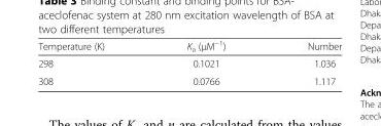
<table><thead><tr><td>Temperature (K)</td><td>K<sub>a</sub> (μM<sup>−1</sup>)</td><td>Number</td></tr></thead><tbody><tr><td>298</td><td>0.1021</td><td>1.036</td></tr><tr><td>308</td><td>0.0766</td><td>1.117</td></tr></tbody></table>